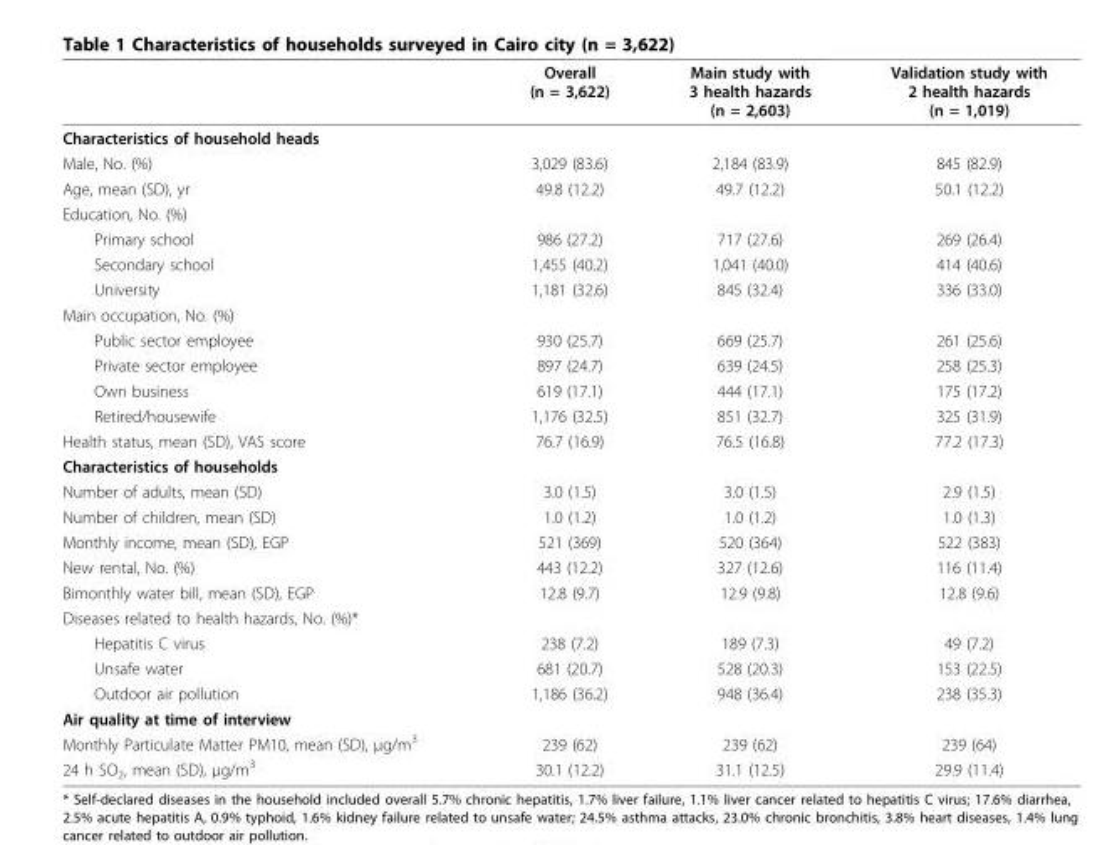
<table><thead><tr><td></td><td>Overall (n = 3,622)</td><td>Main study with 3 health hazards (n = 2,603)</td><td>Validation study with 2 health hazards (n = 1,019)</td></tr></thead><tbody><tr><td colspan="4">Characteristics of household heads</td></tr><tr><td>Male, No. (%)</td><td>3,029 (83.6)</td><td>2,184 (83.9)</td><td>845 (82.9)</td></tr><tr><td>Age, mean (SD), yr</td><td>49.8 (12.2)</td><td>49.7 (12.2)</td><td>50.1 (12.2)</td></tr><tr><td colspan="4">Education, No. (%)</td></tr><tr><td>Primary school</td><td>986 (27.2)</td><td>717 (27.6)</td><td>269 (26.4)</td></tr><tr><td>Secondary school</td><td>1,455 (40.2)</td><td>1,041 (40.0)</td><td>414 (40.6)</td></tr><tr><td>University</td><td>1,181 (32.6)</td><td>845 (32.4)</td><td>336 (33.0)</td></tr><tr><td colspan="4">Main occupation, No. (%)</td></tr><tr><td>Public sector employee</td><td>930 (25.7)</td><td>669 (25.7)</td><td>261 (25.6)</td></tr><tr><td>Private sector employee</td><td>897 (24.7)</td><td>639 (24.5)</td><td>258 (25.3)</td></tr><tr><td>Own business</td><td>619 (17.1)</td><td>444 (17.1)</td><td>175 (17.2)</td></tr><tr><td>Retired/housewife</td><td>1,176 (32.5)</td><td>851 (32.7)</td><td>325 (31.9)</td></tr><tr><td>Health status, mean (SD), VAS score</td><td>76.7 (16.9)</td><td>76.5 (16.8)</td><td>77.2 (17.3)</td></tr><tr><td colspan="4">Characteristics of households</td></tr><tr><td>Number of adults, mean (SD)</td><td>3.0 (1.5)</td><td>3.0 (1.5)</td><td>2.9 (1.5)</td></tr><tr><td>Number of children, mean (SD)</td><td>1.0 (1.2)</td><td>1.0 (1.2)</td><td>1.0 (1.3)</td></tr><tr><td>Monthly income, mean (SD), EGP</td><td>521 (369)</td><td>520 (364)</td><td>522 (383)</td></tr><tr><td>New rental, No. (%)</td><td>443 (12.2)</td><td>327 (12.6)</td><td>116 (11.4)</td></tr><tr><td>Bimonthly water bill, mean (SD), EGP</td><td>12.8 (9.7)</td><td>12.9 (9.8)</td><td>12.8 (9.6)</td></tr><tr><td colspan="4">Diseases related to health hazards, No. (%)*</td></tr><tr><td>Hepatitis C virus</td><td>238 (7.2)</td><td>189 (7.3)</td><td>49 (7.2)</td></tr><tr><td>Unsafe water</td><td>681 (20.7)</td><td>528 (20.3)</td><td>153 (22.5)</td></tr><tr><td>Outdoor air pollution</td><td>1,186 (36.2)</td><td>948 (36.4)</td><td>238 (35.3)</td></tr><tr><td colspan="4">Air quality at time of interview</td></tr><tr><td>Monthly Particulate Matter PM10, mean (SD), μg/m<sup>3</sup></td><td>239 (62)</td><td>239 (62)</td><td>239 (64)</td></tr><tr><td>24 h SO<sub>2</sub>, mean (SD), μg/m<sup>3</sup></td><td>30.1 (12.2)</td><td>31.1 (12.5)</td><td>29.9 (11.4)</td></tr></tbody></table>